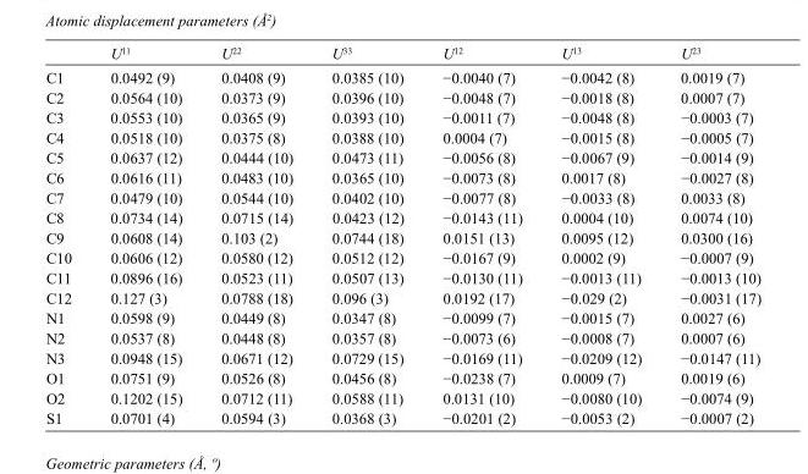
<table><thead><tr><td></td><td>U<sup>11</sup></td><td>U<sup>22</sup></td><td>U<sup>33</sup></td><td>U<sup>12</sup></td><td>U<sup>13</sup></td><td>U<sup>23</sup></td></tr></thead><tbody><tr><td>C1</td><td>0.0492 (9)</td><td>0.0408 (9)</td><td>0.0385 (10)</td><td>−0.0040 (7)</td><td>−0.0042 (8)</td><td>0.0019 (7)</td></tr><tr><td>C2</td><td>0.0564 (10)</td><td>0.0373 (9)</td><td>0.0396 (10)</td><td>−0.0048 (7)</td><td>−0.0018 (8)</td><td>0.0007 (7)</td></tr><tr><td>C3</td><td>0.0553 (10)</td><td>0.0365 (9)</td><td>0.0393 (10)</td><td>−0.0011 (7)</td><td>−0.0048 (8)</td><td>−0.0003 (7)</td></tr><tr><td>C4</td><td>0.0518 (10)</td><td>0.0375 (8)</td><td>0.0388 (10)</td><td>0.0004 (7)</td><td>−0.0015 (8)</td><td>−0.0005 (7)</td></tr><tr><td>C5</td><td>0.0637 (12)</td><td>0.0444 (10)</td><td>0.0473 (11)</td><td>−0.0056 (8)</td><td>−0.0067 (9)</td><td>−0.0014 (9)</td></tr><tr><td>C6</td><td>0.0616 (11)</td><td>0.0483 (10)</td><td>0.0365 (10)</td><td>−0.0073 (8)</td><td>0.0017 (8)</td><td>−0.0027 (8)</td></tr><tr><td>C7</td><td>0.0479 (10)</td><td>0.0544 (10)</td><td>0.0402 (10)</td><td>−0.0077 (8)</td><td>−0.0033 (8)</td><td>0.0033 (8)</td></tr><tr><td>C8</td><td>0.0734 (14)</td><td>0.0715 (14)</td><td>0.0423 (12)</td><td>−0.0143 (11)</td><td>0.0004 (10)</td><td>0.0074 (10)</td></tr><tr><td>C9</td><td>0.0608 (14)</td><td>0.103 (2)</td><td>0.0744 (18)</td><td>0.0151 (13)</td><td>0.0095 (12)</td><td>0.0300 (16)</td></tr><tr><td>C10</td><td>0.0606 (12)</td><td>0.0580 (12)</td><td>0.0512 (12)</td><td>−0.0167 (9)</td><td>0.0002 (9)</td><td>−0.0007 (9)</td></tr><tr><td>C11</td><td>0.0896 (16)</td><td>0.0523 (11)</td><td>0.0507 (13)</td><td>−0.0130 (11)</td><td>−0.0013 (11)</td><td>−0.0013 (10)</td></tr><tr><td>C12</td><td>0.127 (3)</td><td>0.0788 (18)</td><td>0.096 (3)</td><td>0.0192 (17)</td><td>−0.029 (2)</td><td>−0.0031 (17)</td></tr><tr><td>N1</td><td>0.0598 (9)</td><td>0.0449 (8)</td><td>0.0347 (8)</td><td>−0.0099 (7)</td><td>−0.0015 (7)</td><td>0.0027 (6)</td></tr><tr><td>N2</td><td>0.0537 (8)</td><td>0.0448 (8)</td><td>0.0357 (8)</td><td>−0.0073 (6)</td><td>−0.0008 (7)</td><td>0.0007 (6)</td></tr><tr><td>N3</td><td>0.0948 (15)</td><td>0.0671 (12)</td><td>0.0729 (15)</td><td>−0.0169 (11)</td><td>−0.0209 (12)</td><td>−0.0147 (11)</td></tr><tr><td>O1</td><td>0.0751 (9)</td><td>0.0526 (8)</td><td>0.0456 (8)</td><td>−0.0238 (7)</td><td>0.0009 (7)</td><td>0.0019 (6)</td></tr><tr><td>O2</td><td>0.1202 (15)</td><td>0.0712 (11)</td><td>0.0588 (11)</td><td>0.0131 (10)</td><td>−0.0080 (10)</td><td>−0.0074 (9)</td></tr><tr><td>S1</td><td>0.0701 (4)</td><td>0.0594 (3)</td><td>0.0368 (3)</td><td>−0.0201 (2)</td><td>−0.0053 (2)</td><td>−0.0007 (2)</td></tr></tbody></table>